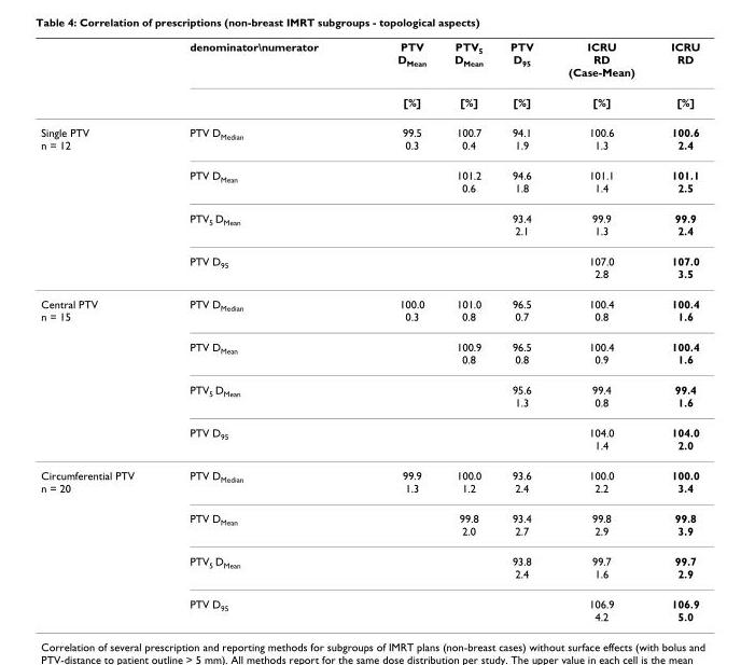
<table><thead><tr><td rowspan="2"></td><td rowspan="2">denominator\numerator</td><td rowspan="2">PTV DMean [%]</td><td rowspan="2">PTV5 DMean [%]</td><td rowspan="2">PTV D95 [%]</td><td rowspan="2">ICRU RD (Case-Mean) [%]</td><td rowspan="2">ICRU RD [%]</td></tr><tr></tr></thead><tbody><tr><td rowspan="4">Single PTV n = 12</td><td>PTV D<sub>Median</sub></td><td>99.5 0.3</td><td>100.7 0.4</td><td>94.1 1.9</td><td>100.6 1.3</td><td>100.6 2.4</td></tr><tr><td>PTV DMean</td><td></td><td>101.2 0.6</td><td>94.6 1.8</td><td>101.1 1.4</td><td>101.1 2.5</td></tr><tr><td>PTV5 DMean</td><td></td><td></td><td>93.4 2.1</td><td>99.9 1.3</td><td>99.9 2.4</td></tr><tr><td>PTV D95</td><td></td><td></td><td></td><td>107.0 2.8</td><td>107.0 3.5</td></tr><tr><td rowspan="4">Central PTV n = 15</td><td>PTV D<sub>Median</sub></td><td>100.0 0.3</td><td>101.0 0.8</td><td>96.5 0.7</td><td>100.4 0.8</td><td>100.4 1.6</td></tr><tr><td>PTV DMean</td><td></td><td>100.9 0.8</td><td>96.5 0.8</td><td>100.4 0.9</td><td>100.4 1.6</td></tr><tr><td>PTV5 DMean</td><td></td><td></td><td>95.6 1.3</td><td>99.4 0.8</td><td>99.4 1.6</td></tr><tr><td>PTV D95</td><td></td><td></td><td></td><td>104.0 1.4</td><td>104.0 2.0</td></tr><tr><td rowspan="4">Circumferential PTV n = 20</td><td>PTV D<sub>Median</sub></td><td>99.9 1.3</td><td>100.0 1.2</td><td>93.6 2.4</td><td>100.0 2.2</td><td>100.0 3.4</td></tr><tr><td>PTV DMean</td><td></td><td>99.8 2.0</td><td>93.4 2.7</td><td>99.8 2.9</td><td>99.8 3.9</td></tr><tr><td>PTV5 DMean</td><td></td><td></td><td>93.8 2.4</td><td>99.7 1.6</td><td>99.7 2.9</td></tr><tr><td>PTV D95</td><td></td><td></td><td></td><td>106.9 4.2</td><td>106.9 5.0</td></tr></tbody></table>